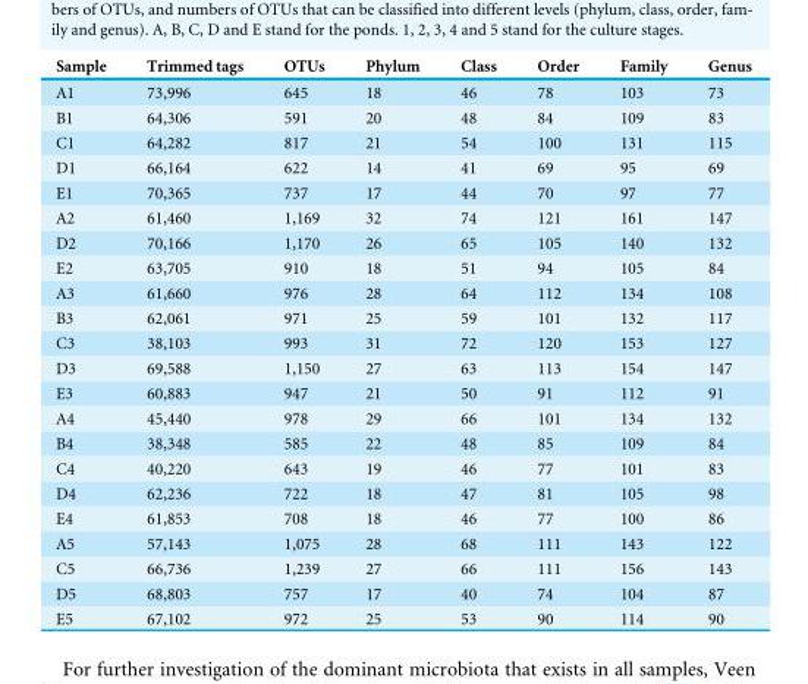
<table><thead><tr><td>Sample</td><td>Trimmed tags</td><td>OTUs</td><td>Phylum</td><td>Class</td><td>Order</td><td>Family</td><td>Genus</td></tr></thead><tbody><tr><td>A1</td><td>73,996</td><td>645</td><td>18</td><td>46</td><td>78</td><td>103</td><td>73</td></tr><tr><td>B1</td><td>64,306</td><td>591</td><td>20</td><td>48</td><td>84</td><td>109</td><td>83</td></tr><tr><td>C1</td><td>64,282</td><td>817</td><td>21</td><td>54</td><td>100</td><td>131</td><td>115</td></tr><tr><td>D1</td><td>66,164</td><td>622</td><td>14</td><td>41</td><td>69</td><td>95</td><td>69</td></tr><tr><td>E1</td><td>70,365</td><td>737</td><td>17</td><td>44</td><td>70</td><td>97</td><td>77</td></tr><tr><td>A2</td><td>61,460</td><td>1,169</td><td>32</td><td>74</td><td>121</td><td>161</td><td>147</td></tr><tr><td>D2</td><td>70,166</td><td>1,170</td><td>26</td><td>65</td><td>105</td><td>140</td><td>132</td></tr><tr><td>E2</td><td>63,705</td><td>910</td><td>18</td><td>51</td><td>94</td><td>105</td><td>84</td></tr><tr><td>A3</td><td>61,660</td><td>976</td><td>28</td><td>64</td><td>112</td><td>134</td><td>108</td></tr><tr><td>B3</td><td>62,061</td><td>971</td><td>25</td><td>59</td><td>101</td><td>132</td><td>117</td></tr><tr><td>C3</td><td>38,103</td><td>993</td><td>31</td><td>72</td><td>120</td><td>153</td><td>127</td></tr><tr><td>D3</td><td>69,588</td><td>1,150</td><td>27</td><td>63</td><td>113</td><td>154</td><td>147</td></tr><tr><td>E3</td><td>60,883</td><td>947</td><td>21</td><td>50</td><td>91</td><td>112</td><td>91</td></tr><tr><td>A4</td><td>45,440</td><td>978</td><td>29</td><td>66</td><td>101</td><td>134</td><td>132</td></tr><tr><td>B4</td><td>38,348</td><td>585</td><td>22</td><td>48</td><td>85</td><td>109</td><td>84</td></tr><tr><td>C4</td><td>40,220</td><td>643</td><td>19</td><td>46</td><td>77</td><td>101</td><td>83</td></tr><tr><td>D4</td><td>62,236</td><td>722</td><td>18</td><td>47</td><td>81</td><td>105</td><td>98</td></tr><tr><td>E4</td><td>61,853</td><td>708</td><td>18</td><td>46</td><td>77</td><td>100</td><td>86</td></tr><tr><td>A5</td><td>57,143</td><td>1,075</td><td>28</td><td>68</td><td>111</td><td>143</td><td>122</td></tr><tr><td>C5</td><td>66,736</td><td>1,239</td><td>27</td><td>66</td><td>111</td><td>156</td><td>143</td></tr><tr><td>D5</td><td>68,803</td><td>757</td><td>17</td><td>40</td><td>74</td><td>104</td><td>87</td></tr><tr><td>E5</td><td>67,102</td><td>972</td><td>25</td><td>53</td><td>90</td><td>114</td><td>90</td></tr></tbody></table>